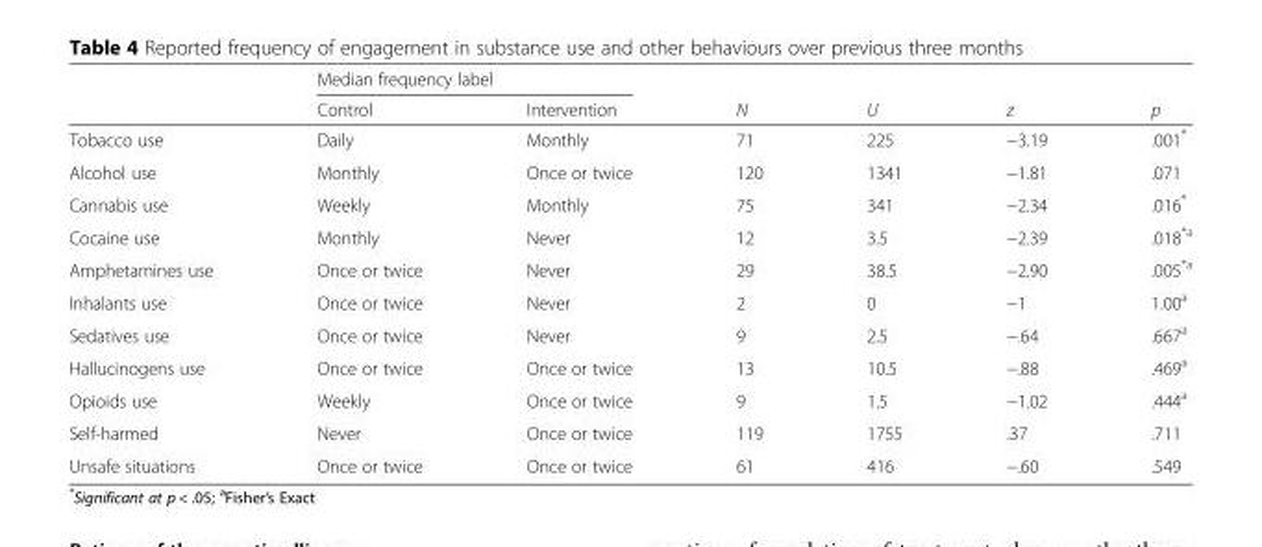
<table><thead><tr><td rowspan="2"></td><td colspan="2">Median frequency label</td><td rowspan="2">N</td><td rowspan="2">U</td><td rowspan="2">z</td><td rowspan="2">p</td></tr><tr><td>Control</td><td>Intervention</td></tr></thead><tbody><tr><td>Tobacco use</td><td>Daily</td><td>Monthly</td><td>71</td><td>225</td><td>−3.19</td><td>.001*</td></tr><tr><td>Alcohol use</td><td>Monthly</td><td>Once or twice</td><td>120</td><td>1341</td><td>−1.81</td><td>.071</td></tr><tr><td>Cannabis use</td><td>Weekly</td><td>Monthly</td><td>75</td><td>341</td><td>−2.34</td><td>.016*</td></tr><tr><td>Cocaine use</td><td>Monthly</td><td>Never</td><td>12</td><td>3.5</td><td>−2.39</td><td>.018<sup>*a</sup></td></tr><tr><td>Amphetamines use</td><td>Once or twice</td><td>Never</td><td>29</td><td>38.5</td><td>−2.90</td><td>.005<sup>*a</sup></td></tr><tr><td>Inhalants use</td><td>Once or twice</td><td>Never</td><td>2</td><td>0</td><td>−1</td><td>1.00<sup>a</sup></td></tr><tr><td>Sedatives use</td><td>Once or twice</td><td>Never</td><td>9</td><td>2.5</td><td>−.64</td><td>.667<sup>a</sup></td></tr><tr><td>Hallucinogens use</td><td>Once or twice</td><td>Once or twice</td><td>13</td><td>10.5</td><td>−.88</td><td>.469<sup>a</sup></td></tr><tr><td>Opioids use</td><td>Weekly</td><td>Once or twice</td><td>9</td><td>1.5</td><td>−1.02</td><td>.444<sup>a</sup></td></tr><tr><td>Self-harmed</td><td>Never</td><td>Once or twice</td><td>119</td><td>1755</td><td>.37</td><td>.711</td></tr><tr><td>Unsafe situations</td><td>Once or twice</td><td>Once or twice</td><td>61</td><td>416</td><td>−.60</td><td>.549</td></tr></tbody></table>